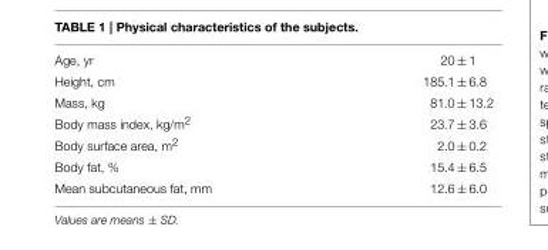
<table><tbody><tr><td>Age, yr</td><td>20 ± 1</td></tr><tr><td>Height, cm</td><td>185.1 ± 6.8</td></tr><tr><td>Mass, kg</td><td>81.0 ± 13.2</td></tr><tr><td>Body mass index, kg/m<sup>2</sup></td><td>23.7 ± 3.6</td></tr><tr><td>Body surface area, m<sup>2</sup></td><td>2.0 ± 0.2</td></tr><tr><td>Body fat, %</td><td>15.4 ± 6.5</td></tr><tr><td>Mean subcutaneous fat, mm</td><td>12.6 ± 6.0</td></tr></tbody></table>